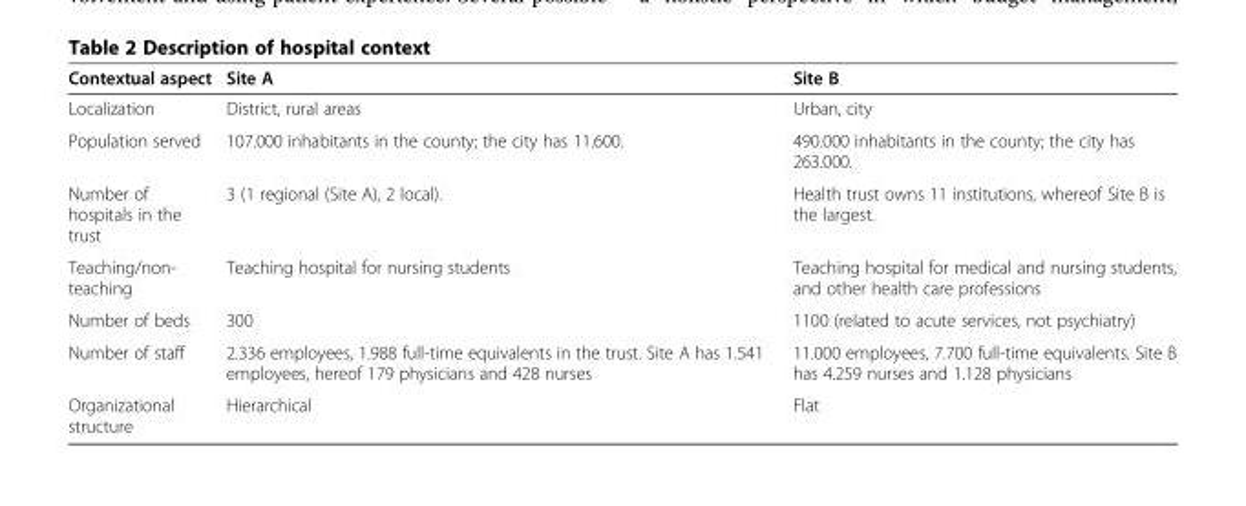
<table><thead><tr><td>Contextual aspect</td><td>Site A</td><td>Site B</td></tr></thead><tbody><tr><td>Localization</td><td>District, rural areas</td><td>Urban, city</td></tr><tr><td>Population served</td><td>107.000 inhabitants in the county; the city has 11.600.</td><td>490.000 inhabitants in the county; the city has 263.000.</td></tr><tr><td>Number of hospitals in the trust</td><td>3 (1 regional (Site A), 2 local).</td><td>Health trust owns 11 institutions, whereof Site B is the largest.</td></tr><tr><td>Teaching/non- teaching</td><td>Teaching hospital for nursing students</td><td>Teaching hospital for medical and nursing students, and other health care professions</td></tr><tr><td>Number of beds</td><td>300</td><td>1100 (related to acute services, not psychiatry)</td></tr><tr><td>Number of staff</td><td>2.336 employees, 1.988 full-time equivalents in the trust. Site A has 1.541 employees, hereof 179 physicians and 428 nurses</td><td>11.000 employees, 7.700 full-time equivalents. Site B has 4.259 nurses and 1.128 physicians</td></tr><tr><td>Organizational structure</td><td>Hierarchical</td><td>Flat</td></tr></tbody></table>